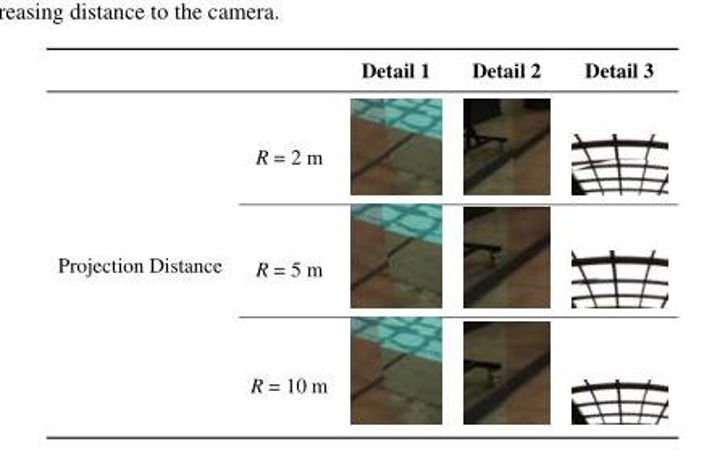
<table><thead><tr><td></td><td></td><td>Detail 1</td><td>Detail 2</td><td>Detail 3</td></tr></thead><tbody><tr><td rowspan="3">Projection Distance</td><td>R = 2 m</td><td></td><td></td><td></td></tr><tr><td>R = 5 m</td><td></td><td></td><td></td></tr><tr><td>R = 10 m</td><td></td><td></td><td></td></tr></tbody></table>